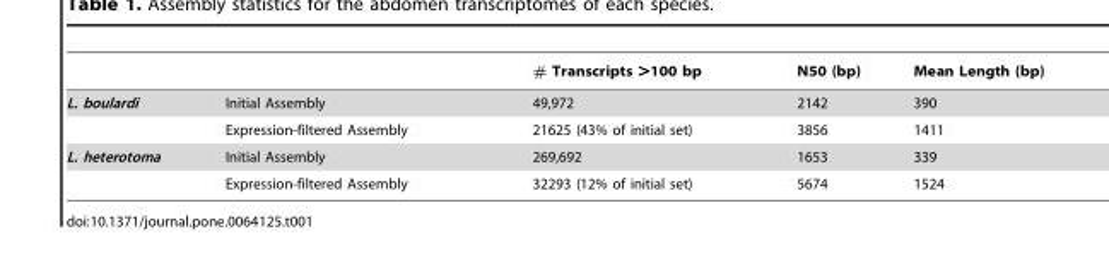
<table><thead><tr><td></td><td></td><td># Transcripts &gt;100 bp</td><td>N50 (bp)</td><td>Mean Length (bp)</td></tr></thead><tbody><tr><td rowspan="2">L. boulardi</td><td>Initial Assembly</td><td>49,972</td><td>2142</td><td>390</td></tr><tr><td>Expression-filtered Assembly</td><td>21625 (43% of initial set)</td><td>3856</td><td>1411</td></tr><tr><td rowspan="2">L. heterotoma</td><td>Initial Assembly</td><td>269,692</td><td>1653</td><td>339</td></tr><tr><td>Expression-filtered Assembly</td><td>32293 (12% of initial set)</td><td>5674</td><td>1524</td></tr></tbody></table>